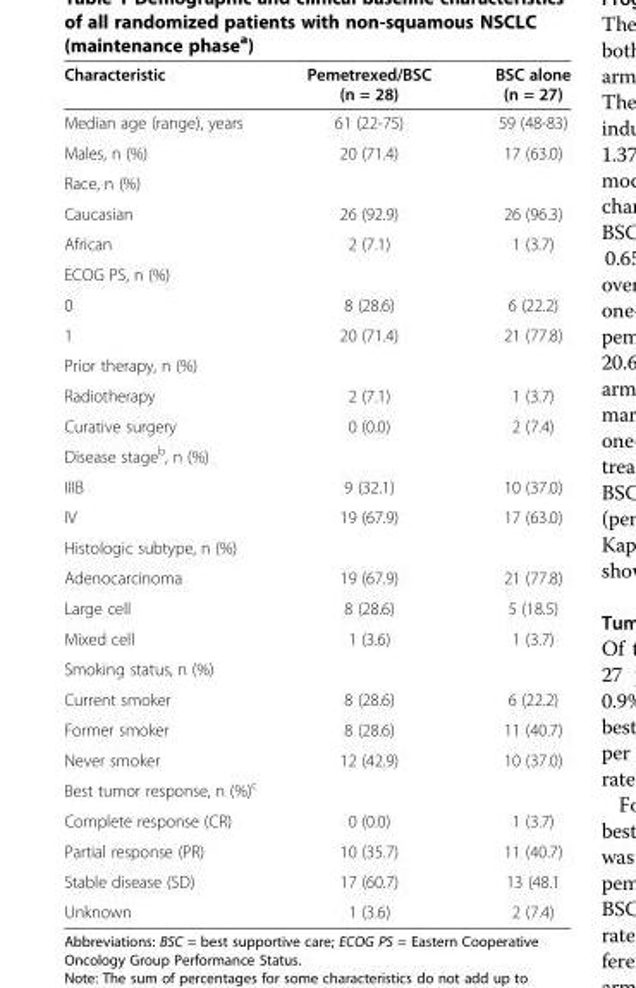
<table><thead><tr><td>Characteristic</td><td>Pemetrexed/BSC (n = 28)</td><td>BSC alone (n = 27)</td></tr></thead><tbody><tr><td>Median age (range), years</td><td>61 (22-75)</td><td>59 (48-83)</td></tr><tr><td>Males, n (%)</td><td>20 (71.4)</td><td>17 (63.0)</td></tr><tr><td colspan="3">Race, n (%)</td></tr><tr><td>Caucasian</td><td>26 (92.9)</td><td>26 (96.3)</td></tr><tr><td>African</td><td>2 (7.1)</td><td>1 (3.7)</td></tr><tr><td colspan="3">ECOG PS, n (%)</td></tr><tr><td>0</td><td>8 (28.6)</td><td>6 (22.2)</td></tr><tr><td>1</td><td>20 (71.4)</td><td>21 (77.8)</td></tr><tr><td colspan="3">Prior therapy, n (%)</td></tr><tr><td>Radiotherapy</td><td>2 (7.1)</td><td>1 (3.7)</td></tr><tr><td>Curative surgery</td><td>0 (0.0)</td><td>2 (7.4)</td></tr><tr><td colspan="3">Disease stage<sup>b</sup>, n (%)</td></tr><tr><td>IIIB</td><td>9 (32.1)</td><td>10 (37.0)</td></tr><tr><td>IV</td><td>19 (67.9)</td><td>17 (63.0)</td></tr><tr><td colspan="3">Histologic subtype, n (%)</td></tr><tr><td>Adenocarcinoma</td><td>19 (67.9)</td><td>21 (77.8)</td></tr><tr><td>Large cell</td><td>8 (28.6)</td><td>5 (18.5)</td></tr><tr><td>Mixed cell</td><td>1 (3.6)</td><td>1 (3.7)</td></tr><tr><td colspan="3">Smoking status, n (%)</td></tr><tr><td>Current smoker</td><td>8 (28.6)</td><td>6 (22.2)</td></tr><tr><td>Former smoker</td><td>8 (28.6)</td><td>11 (40.7)</td></tr><tr><td>Never smoker</td><td>12 (42.9)</td><td>10 (37.0)</td></tr><tr><td colspan="3">Best tumor response, n (%)<sup>c</sup></td></tr><tr><td>Complete response (CR)</td><td>0 (0.0)</td><td>1 (3.7)</td></tr><tr><td>Partial response (PR)</td><td>10 (35.7)</td><td>11 (40.7)</td></tr><tr><td>Stable disease (SD)</td><td>17 (60.7)</td><td>13 (48.1</td></tr><tr><td>Unknown</td><td>1 (3.6)</td><td>2 (7.4)</td></tr></tbody></table>